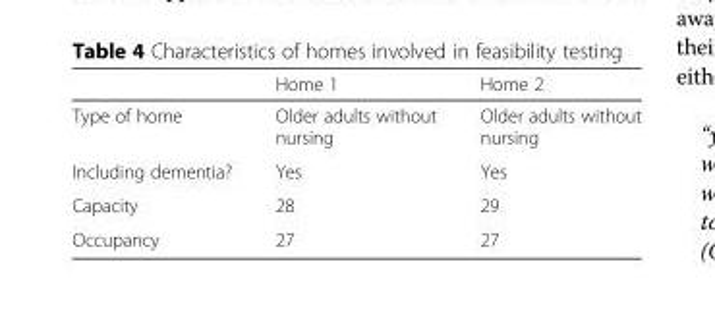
<table><thead><tr><td></td><td>Home 1</td><td>Home 2</td></tr></thead><tbody><tr><td>Type of home</td><td>Older adults without nursing</td><td>Older adults without nursing</td></tr><tr><td>Including dementia?</td><td>Yes</td><td>Yes</td></tr><tr><td>Capacity</td><td>28</td><td>29</td></tr><tr><td>Occupancy</td><td>27</td><td>27</td></tr></tbody></table>